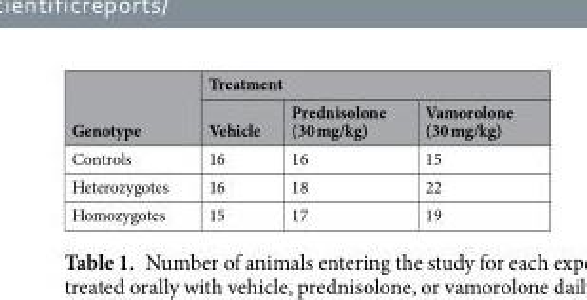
<table><thead><tr><td rowspan="2">Genotype</td><td colspan="3">Treatment</td></tr><tr><td>Vehicle</td><td>Prednisolone (30 mg/kg)</td><td>Vamorolone (30 mg/kg)</td></tr></thead><tbody><tr><td>Controls</td><td>16</td><td>16</td><td>15</td></tr><tr><td>Heterozygotes</td><td>16</td><td>18</td><td>22</td></tr><tr><td>Homozygotes</td><td>15</td><td>17</td><td>19</td></tr></tbody></table>